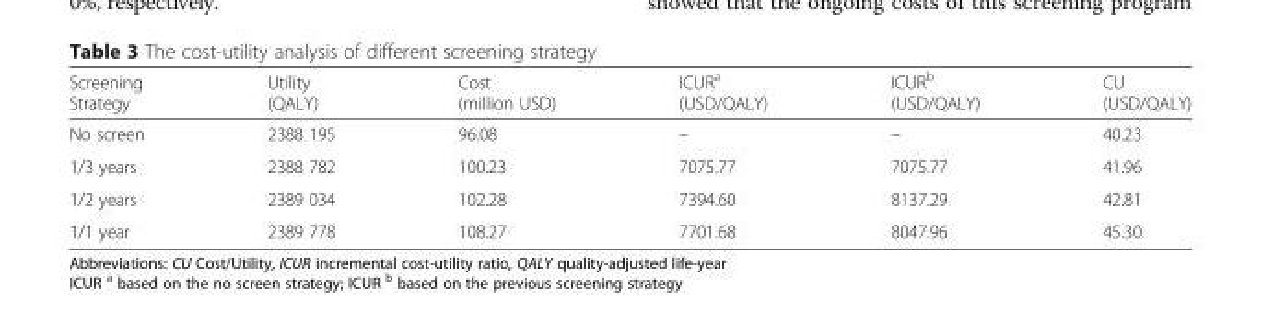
<table><thead><tr><td>Screening Strategy</td><td>Utility (QALY)</td><td>Cost (million USD)</td><td>ICUR<sup>a</sup> (USD/QALY)</td><td>ICUR<sup>b</sup> (USD/QALY)</td><td>CU (USD/QALY)</td></tr></thead><tbody><tr><td>No screen</td><td>2388 195</td><td>96.08</td><td>–</td><td>–</td><td>40.23</td></tr><tr><td>1/3 years</td><td>2388 782</td><td>100.23</td><td>7075.77</td><td>7075.77</td><td>41.96</td></tr><tr><td>1/2 years</td><td>2389 034</td><td>102.28</td><td>7394.60</td><td>8137.29</td><td>42.81</td></tr><tr><td>1/1 year</td><td>2389 778</td><td>108.27</td><td>7701.68</td><td>8047.96</td><td>45.30</td></tr></tbody></table>